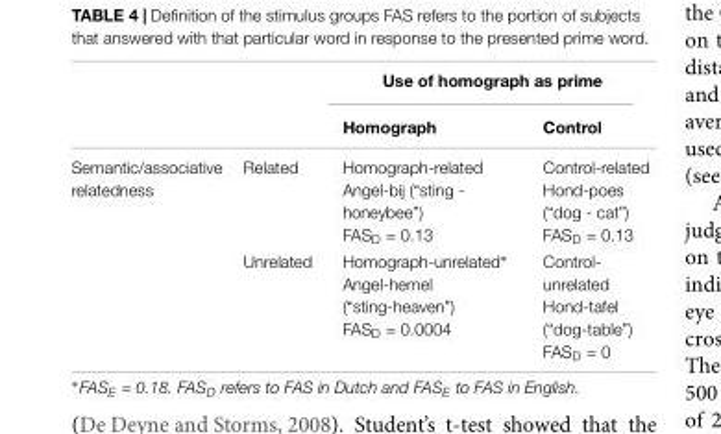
<table><thead><tr><td rowspan="2"></td><td rowspan="2"></td><td colspan="2">Use of homograph as prime</td></tr><tr><td>Homograph</td><td>Control</td></tr></thead><tbody><tr><td rowspan="2">Semantic/associative relatedness</td><td>Related</td><td>Homograph-related Angel-bij (“sting - honeybee”) FAS<sub>D</sub> = 0.13</td><td>Control-related Hond-poes (“dog - cat”) FAS<sub>D</sub> = 0.13</td></tr><tr><td>Unrelated</td><td>Homograph-unrelated∗ Angel-hemel (“sting-heaven”) FAS<sub>D</sub> = 0.0004</td><td>Control- unrelated Hond-tafel (“dog-table”) FAS<sub>D</sub> = 0</td></tr></tbody></table>